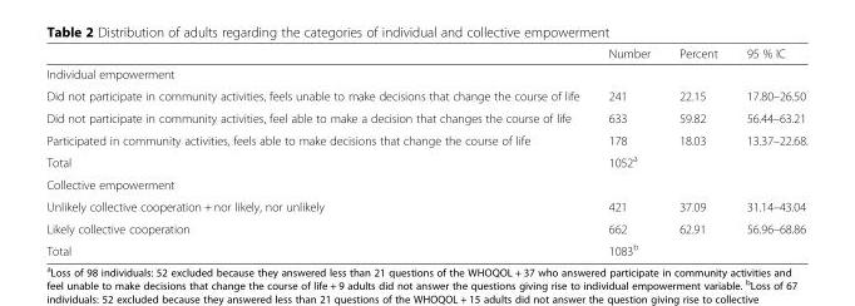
<table><thead><tr><td></td><td>Number</td><td>Percent</td><td>95 % IC</td></tr></thead><tbody><tr><td colspan="4">Individual empowerment</td></tr><tr><td>Did not participate in community activities, feels unable to make decisions that change the course of life</td><td>241</td><td>22.15</td><td>17.80–26.50</td></tr><tr><td>Did not participate in community activities, feel able to make a decision that changes the course of life</td><td>633</td><td>59.82</td><td>56.44–63.21</td></tr><tr><td>Participated in community activities, feels able to make decisions that change the course of life</td><td>178</td><td>18.03</td><td>13.37–22.68.</td></tr><tr><td>Total</td><td>1052<sup>a</sup></td><td></td><td></td></tr><tr><td colspan="4">Collective empowerment</td></tr><tr><td>Unlikely collective cooperation + nor likely, nor unlikely</td><td>421</td><td>37.09</td><td>31.14–43.04</td></tr><tr><td>Likely collective cooperation</td><td>662</td><td>62.91</td><td>56.96–68.86</td></tr><tr><td>Total</td><td>1083<sup>b</sup></td><td></td><td></td></tr></tbody></table>